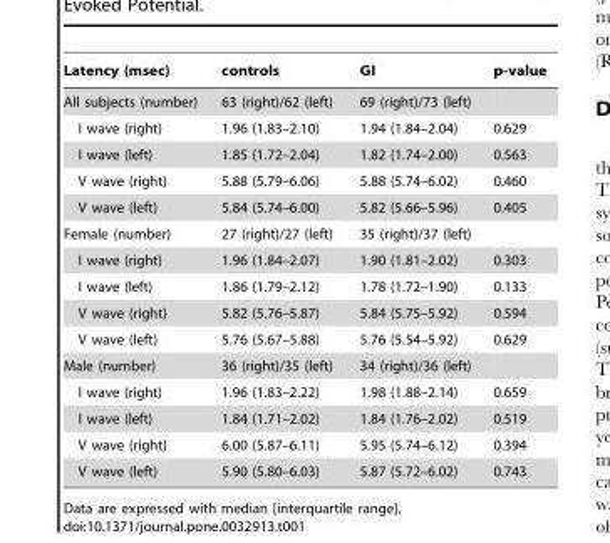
<table><thead><tr><td>Latency (msec)</td><td>controls</td><td>GI</td><td>p-value</td></tr></thead><tbody><tr><td>All subjects (number)</td><td>63 (right)/62 (left)</td><td>69 (right)/73 (left)</td><td></td></tr><tr><td>I wave (right)</td><td>1.96 (1.83–2.10)</td><td>1.94 (1.84–2.04)</td><td>0.629</td></tr><tr><td>I wave (left)</td><td>1.85 (1.72–2.04)</td><td>1.82 (1.74–2.00)</td><td>0.563</td></tr><tr><td>V wave (right)</td><td>5.88 (5.79–6.06)</td><td>5.88 (5.74–6.02)</td><td>0.460</td></tr><tr><td>V wave (left)</td><td>5.84 (5.74–6.00)</td><td>5.82 (5.66–5.96)</td><td>0.405</td></tr><tr><td>Female (number)</td><td>27 (right)/27 (left)</td><td>35 (right)/37 (left)</td><td></td></tr><tr><td>I wave (right)</td><td>1.96 (1.84–2.07)</td><td>1.90 (1.81–2.02)</td><td>0.303</td></tr><tr><td>I wave (left)</td><td>1.86 (1.79–2.12)</td><td>1.78 (1.72–1.90)</td><td>0.133</td></tr><tr><td>V wave (right)</td><td>5.82 (5.76–5.87)</td><td>5.84 (5.75–5.92)</td><td>0.594</td></tr><tr><td>V wave (left)</td><td>5.76 (5.67–5.88)</td><td>5.76 (5.54–5.92)</td><td>0.629</td></tr><tr><td>Male (number)</td><td>36 (right)/35 (left)</td><td>34 (right)/36 (left)</td><td></td></tr><tr><td>I wave (right)</td><td>1.96 (1.83–2.22)</td><td>1.98 (1.88–2.14)</td><td>0.659</td></tr><tr><td>I wave (left)</td><td>1.84 (1.71–2.02)</td><td>1.84 (1.76–2.02)</td><td>0.519</td></tr><tr><td>V wave (right)</td><td>6.00 (5.87–6.11)</td><td>5.95 (5.74–6.12)</td><td>0.394</td></tr><tr><td>V wave (left)</td><td>5.90 (5.80–6.03)</td><td>5.87 (5.72–6.02)</td><td>0.743</td></tr></tbody></table>